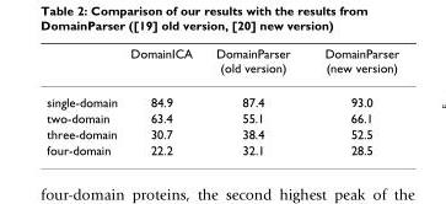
<table><thead><tr><td></td><td>DomainICA</td><td>DomainParser (old version)</td><td>DomainParser (new version)</td></tr></thead><tbody><tr><td>single-domain</td><td>84.9</td><td>87.4</td><td>93.0</td></tr><tr><td>two-domain</td><td>63.4</td><td>55.1</td><td>66.1</td></tr><tr><td>three-domain</td><td>30.7</td><td>38.4</td><td>52.5</td></tr><tr><td>four-domain</td><td>22.2</td><td>32.1</td><td>28.5</td></tr></tbody></table>